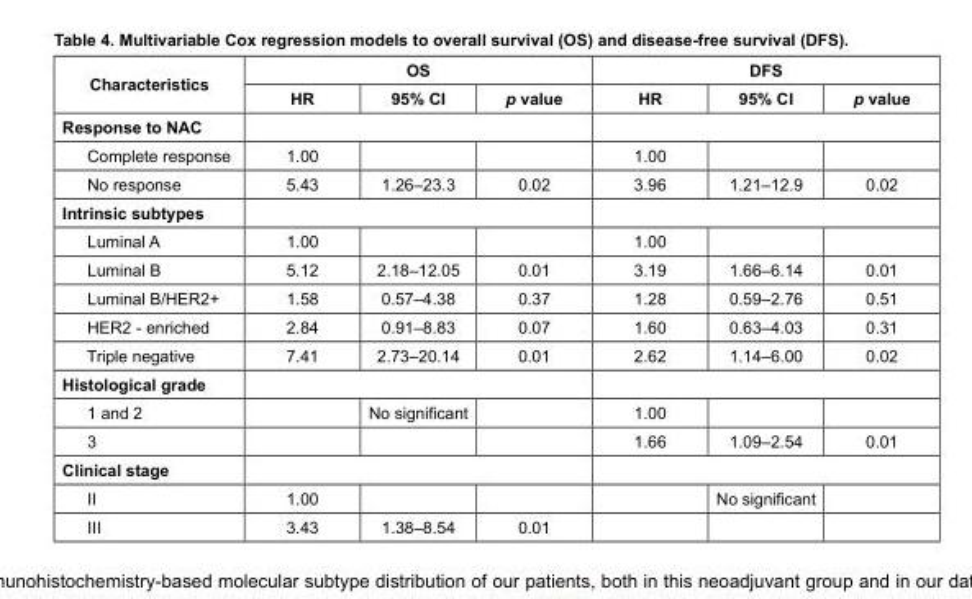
<table><thead><tr><td rowspan="2">Characteristics</td><td colspan="3">OS</td><td colspan="3">DFS</td></tr><tr><td>HR</td><td>95% CI</td><td>p value</td><td>HR</td><td>95% CI</td><td>p value</td></tr></thead><tbody><tr><td colspan="7">Response to NAC</td></tr><tr><td>Complete response</td><td>1.00</td><td></td><td></td><td>1.00</td><td></td><td></td></tr><tr><td>No response</td><td>5.43</td><td>1.26–23.3</td><td>0.02</td><td>3.96</td><td>1.21–12.9</td><td>0.02</td></tr><tr><td colspan="7">Intrinsic subtypes</td></tr><tr><td>Luminal A</td><td>1.00</td><td></td><td></td><td>1.00</td><td></td><td></td></tr><tr><td>Luminal B</td><td>5.12</td><td>2.18–12.05</td><td>0.01</td><td>3.19</td><td>1.66–6.14</td><td>0.01</td></tr><tr><td>Luminal B/HER2+</td><td>1.58</td><td>0.57–4.38</td><td>0.37</td><td>1.28</td><td>0.59–2.76</td><td>0.51</td></tr><tr><td>HER2 - enriched</td><td>2.84</td><td>0.91–8.83</td><td>0.07</td><td>1.60</td><td>0.63–4.03</td><td>0.31</td></tr><tr><td>Triple negative</td><td>7.41</td><td>2.73–20.14</td><td>0.01</td><td>2.62</td><td>1.14–6.00</td><td>0.02</td></tr><tr><td colspan="7">Histological grade</td></tr><tr><td>1 and 2</td><td></td><td>No significant</td><td></td><td>1.00</td><td></td><td></td></tr><tr><td>3</td><td></td><td></td><td></td><td>1.66</td><td>1.09–2.54</td><td>0.01</td></tr><tr><td colspan="7">Clinical stage</td></tr><tr><td>II</td><td>1.00</td><td></td><td></td><td></td><td>No significant</td><td></td></tr><tr><td>III</td><td>3.43</td><td>1.38–8.54</td><td>0.01</td><td></td><td></td><td></td></tr></tbody></table>